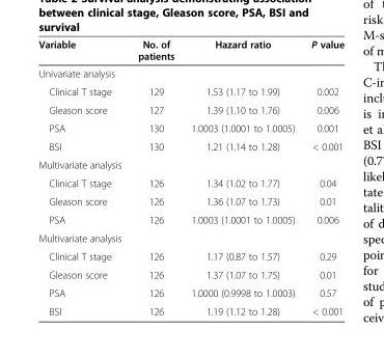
<table><thead><tr><td>Variable</td><td>No. of patients</td><td>Hazard ratio</td><td>P value</td></tr></thead><tbody><tr><td colspan="4">Univariate analysis</td></tr><tr><td>Clinical T stage</td><td>129</td><td>1.53 (1.17 to 1.99)</td><td>0.002</td></tr><tr><td>Gleason score</td><td>127</td><td>1.39 (1.10 to 1.76)</td><td>0.006</td></tr><tr><td>PSA</td><td>130</td><td>1.0003 (1.0001 to 1.0005)</td><td>0.001</td></tr><tr><td>BSI</td><td>130</td><td>1.21 (1.14 to 1.28)</td><td>&lt; 0.001</td></tr><tr><td colspan="4">Multivariate analysis</td></tr><tr><td>Clinical T stage</td><td>126</td><td>1.34 (1.02 to 1.77)</td><td>0.04</td></tr><tr><td>Gleason score</td><td>126</td><td>1.36 (1.07 to 1.73)</td><td>0.01</td></tr><tr><td>PSA</td><td>126</td><td>1.0003 (1.0001 to 1.0005)</td><td>0.006</td></tr><tr><td colspan="4">Multivariate analysis</td></tr><tr><td>Clinical T stage</td><td>126</td><td>1.17 (0.87 to 1.57)</td><td>0.29</td></tr><tr><td>Gleason score</td><td>126</td><td>1.37 (1.07 to 1.75)</td><td>0.01</td></tr><tr><td>PSA</td><td>126</td><td>1.0000 (0.9998 to 1.0003)</td><td>0.57</td></tr><tr><td>BSI</td><td>126</td><td>1.19 (1.12 to 1.28)</td><td>&lt; 0.001</td></tr></tbody></table>